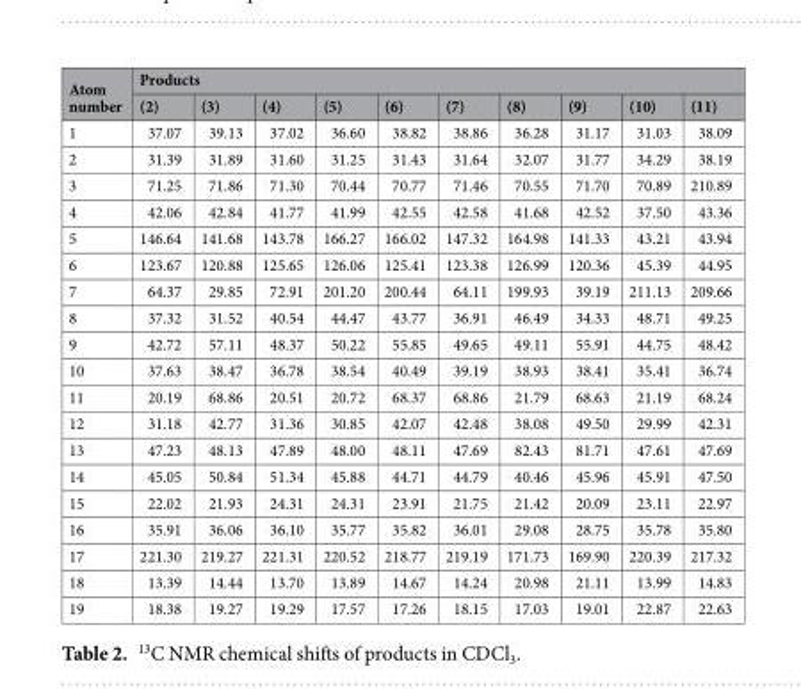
<table><thead><tr><td rowspan="2">Atom number</td><td colspan="10">Products</td></tr><tr><td>(2)</td><td>(3)</td><td>(4)</td><td>(5)</td><td>(6)</td><td>(7)</td><td>(8)</td><td>(9)</td><td>(10)</td><td>(11)</td></tr></thead><tbody><tr><td>1</td><td>37.07</td><td>39.13</td><td>37.02</td><td>36.60</td><td>38.82</td><td>38.86</td><td>36.28</td><td>31.17</td><td>31.03</td><td>38.09</td></tr><tr><td>2</td><td>31.39</td><td>31.89</td><td>31.60</td><td>31.25</td><td>31.43</td><td>31.64</td><td>32.07</td><td>31.77</td><td>34.29</td><td>38.19</td></tr><tr><td>3</td><td>71.25</td><td>71.86</td><td>71.30</td><td>70.44</td><td>70.77</td><td>71.46</td><td>70.55</td><td>71.70</td><td>70.89</td><td>210.89</td></tr><tr><td>4</td><td>42.06</td><td>42.84</td><td>41.77</td><td>41.99</td><td>42.55</td><td>42.58</td><td>41.68</td><td>42.52</td><td>37.50</td><td>43.36</td></tr><tr><td>5</td><td>146.64</td><td>141.68</td><td>143.78</td><td>166.27</td><td>166.02</td><td>147.32</td><td>164.98</td><td>141.33</td><td>43.21</td><td>43.94</td></tr><tr><td>6</td><td>123.67</td><td>120.88</td><td>125.65</td><td>126.06</td><td>125.41</td><td>123.38</td><td>126.99</td><td>120.36</td><td>45.39</td><td>44.95</td></tr><tr><td>7</td><td>64.37</td><td>29.85</td><td>72.91</td><td>201.20</td><td>200.44</td><td>64.11</td><td>199.93</td><td>39.19</td><td>211.13</td><td>209.66</td></tr><tr><td>8</td><td>37.32</td><td>31.52</td><td>40.54</td><td>44.47</td><td>43.77</td><td>36.91</td><td>46.49</td><td>34.33</td><td>48.71</td><td>49.25</td></tr><tr><td>9</td><td>42.72</td><td>57.11</td><td>48.37</td><td>50.22</td><td>55.85</td><td>49.65</td><td>49.11</td><td>55.91</td><td>44.75</td><td>48.42</td></tr><tr><td>10</td><td>37.63</td><td>38.47</td><td>36.78</td><td>38.54</td><td>40.49</td><td>39.19</td><td>38.93</td><td>38.41</td><td>35.41</td><td>36.74</td></tr><tr><td>11</td><td>20.19</td><td>68.86</td><td>20.51</td><td>20.72</td><td>68.37</td><td>68.86</td><td>21.79</td><td>68.63</td><td>21.19</td><td>68.24</td></tr><tr><td>12</td><td>31.18</td><td>42.77</td><td>31.36</td><td>30.85</td><td>42.07</td><td>42.48</td><td>38.08</td><td>49.50</td><td>29.99</td><td>42.31</td></tr><tr><td>13</td><td>47.23</td><td>48.13</td><td>47.89</td><td>48.00</td><td>48.11</td><td>47.69</td><td>82.43</td><td>81.71</td><td>47.61</td><td>47.69</td></tr><tr><td>14</td><td>45.05</td><td>50.84</td><td>51.34</td><td>45.88</td><td>44.71</td><td>44.79</td><td>40.46</td><td>45.96</td><td>45.91</td><td>47.50</td></tr><tr><td>15</td><td>22.02</td><td>21.93</td><td>24.31</td><td>24.31</td><td>23.91</td><td>21.75</td><td>21.42</td><td>20.09</td><td>23.11</td><td>22.97</td></tr><tr><td>16</td><td>35.91</td><td>36.06</td><td>36.10</td><td>35.77</td><td>35.82</td><td>36.01</td><td>29.08</td><td>28.75</td><td>35.78</td><td>35.80</td></tr><tr><td>17</td><td>221.30</td><td>219.27</td><td>221.31</td><td>220.52</td><td>218.77</td><td>219.19</td><td>171.73</td><td>169.90</td><td>220.39</td><td>217.32</td></tr><tr><td>18</td><td>13.39</td><td>14.44</td><td>13.70</td><td>13.89</td><td>14.67</td><td>14.24</td><td>20.98</td><td>21.11</td><td>13.99</td><td>14.83</td></tr><tr><td>19</td><td>18.38</td><td>19.27</td><td>19.29</td><td>17.57</td><td>17.26</td><td>18.15</td><td>17.03</td><td>19.01</td><td>22.87</td><td>22.63</td></tr></tbody></table>